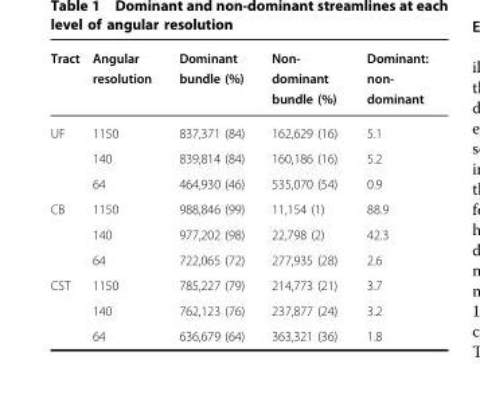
<table><thead><tr><td>Tract</td><td>Angular resolution</td><td>Dominant bundle (%)</td><td>Non- dominant bundle (%)</td><td>Dominant: non- dominant</td></tr></thead><tbody><tr><td rowspan="3">UF</td><td>1150</td><td>837,371 (84)</td><td>162,629 (16)</td><td>5.1</td></tr><tr><td>140</td><td>839,814 (84)</td><td>160,186 (16)</td><td>5.2</td></tr><tr><td>64</td><td>464,930 (46)</td><td>535,070 (54)</td><td>0.9</td></tr><tr><td rowspan="3">CB</td><td>1150</td><td>988,846 (99)</td><td>11,154 (1)</td><td>88.9</td></tr><tr><td>140</td><td>977,202 (98)</td><td>22,798 (2)</td><td>42.3</td></tr><tr><td>64</td><td>722,065 (72)</td><td>277,935 (28)</td><td>2.6</td></tr><tr><td rowspan="3">CST</td><td>1150</td><td>785,227 (79)</td><td>214,773 (21)</td><td>3.7</td></tr><tr><td>140</td><td>762,123 (76)</td><td>237,877 (24)</td><td>3.2</td></tr><tr><td>64</td><td>636,679 (64)</td><td>363,321 (36)</td><td>1.8</td></tr></tbody></table>